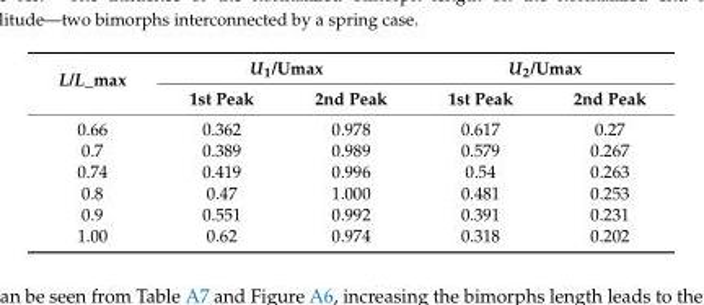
<table><thead><tr><td rowspan="2">L/L_max</td><td colspan="2">U<sub>1</sub>/Umax</td><td colspan="2">U<sub>2</sub>/Umax</td></tr><tr><td>1st Peak</td><td>2nd Peak</td><td>1st Peak</td><td>2nd Peak</td></tr></thead><tbody><tr><td>0.66</td><td>0.362</td><td>0.978</td><td>0.617</td><td>0.27</td></tr><tr><td>0.7</td><td>0.389</td><td>0.989</td><td>0.579</td><td>0.267</td></tr><tr><td>0.74</td><td>0.419</td><td>0.996</td><td>0.54</td><td>0.263</td></tr><tr><td>0.8</td><td>0.47</td><td>1.000</td><td>0.481</td><td>0.253</td></tr><tr><td>0.9</td><td>0.551</td><td>0.992</td><td>0.391</td><td>0.231</td></tr><tr><td>1.00</td><td>0.62</td><td>0.974</td><td>0.318</td><td>0.202</td></tr></tbody></table>